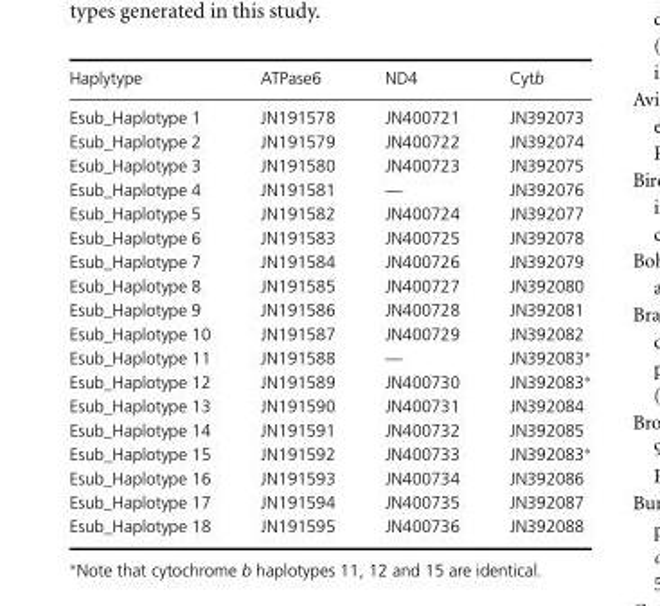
<table><thead><tr><td>Haplytype</td><td>ATPase6</td><td>ND4</td><td>Cytb</td></tr></thead><tbody><tr><td>Esub_Haplotype 1</td><td>JN191578</td><td>JN400721</td><td>JN392073</td></tr><tr><td>Esub_Haplotype 2</td><td>JN191579</td><td>JN400722</td><td>JN392074</td></tr><tr><td>Esub_Haplotype 3</td><td>JN191580</td><td>JN400723</td><td>JN392075</td></tr><tr><td>Esub_Haplotype 4</td><td>JN191581</td><td>—</td><td>JN392076</td></tr><tr><td>Esub_Haplotype 5</td><td>JN191582</td><td>JN400724</td><td>JN392077</td></tr><tr><td>Esub_Haplotype 6</td><td>JN191583</td><td>JN400725</td><td>JN392078</td></tr><tr><td>Esub_Haplotype 7</td><td>JN191584</td><td>JN400726</td><td>JN392079</td></tr><tr><td>Esub_Haplotype 8</td><td>JN191585</td><td>JN400727</td><td>JN392080</td></tr><tr><td>Esub_Haplotype 9</td><td>JN191586</td><td>JN400728</td><td>JN392081</td></tr><tr><td>Esub_Haplotype 10</td><td>JN191587</td><td>JN400729</td><td>JN392082</td></tr><tr><td>Esub_Haplotype 11</td><td>JN191588</td><td>—</td><td>JN392083∗</td></tr><tr><td>Esub_Haplotype 12</td><td>JN191589</td><td>JN400730</td><td>JN392083∗</td></tr><tr><td>Esub_Haplotype 13</td><td>JN191590</td><td>JN400731</td><td>JN392084</td></tr><tr><td>Esub_Haplotype 14</td><td>JN191591</td><td>JN400732</td><td>JN392085</td></tr><tr><td>Esub_Haplotype 15</td><td>JN191592</td><td>JN400733</td><td>JN392083∗</td></tr><tr><td>Esub_Haplotype 16</td><td>JN191593</td><td>JN400734</td><td>JN392086</td></tr><tr><td>Esub_Haplotype 17</td><td>JN191594</td><td>JN400735</td><td>JN392087</td></tr><tr><td>Esub_Haplotype 18</td><td>JN191595</td><td>JN400736</td><td>JN392088</td></tr></tbody></table>